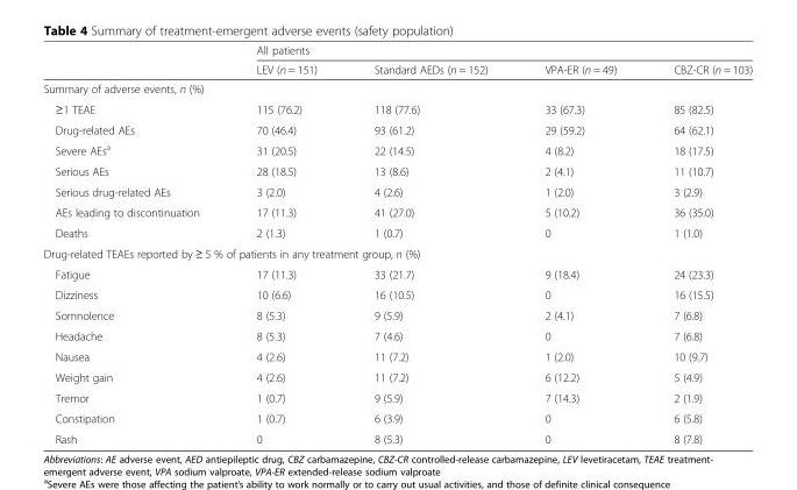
<table><thead><tr><td rowspan="2"></td><td colspan="4">All patients</td></tr><tr><td>LEV (n = 151)</td><td>Standard AEDs (n = 152)</td><td>VPA-ER (n = 49)</td><td>CBZ-CR (n = 103)</td></tr></thead><tbody><tr><td colspan="5">Summary of adverse events, n (%)</td></tr><tr><td>≥1 TEAE</td><td>115 (76.2)</td><td>118 (77.6)</td><td>33 (67.3)</td><td>85 (82.5)</td></tr><tr><td>Drug-related AEs</td><td>70 (46.4)</td><td>93 (61.2)</td><td>29 (59.2)</td><td>64 (62.1)</td></tr><tr><td>Severe AEs<sup>a</sup></td><td>31 (20.5)</td><td>22 (14.5)</td><td>4 (8.2)</td><td>18 (17.5)</td></tr><tr><td>Serious AEs</td><td>28 (18.5)</td><td>13 (8.6)</td><td>2 (4.1)</td><td>11 (10.7)</td></tr><tr><td>Serious drug-related AEs</td><td>3 (2.0)</td><td>4 (2.6)</td><td>1 (2.0)</td><td>3 (2.9)</td></tr><tr><td>AEs leading to discontinuation</td><td>17 (11.3)</td><td>41 (27.0)</td><td>5 (10.2)</td><td>36 (35.0)</td></tr><tr><td>Deaths</td><td>2 (1.3)</td><td>1 (0.7)</td><td>0</td><td>1 (1.0)</td></tr><tr><td colspan="5">Drug-related TEAEs reported by ≥ 5 % of patients in any treatment group, n (%)</td></tr><tr><td>Fatigue</td><td>17 (11.3)</td><td>33 (21.7)</td><td>9 (18.4)</td><td>24 (23.3)</td></tr><tr><td>Dizziness</td><td>10 (6.6)</td><td>16 (10.5)</td><td>0</td><td>16 (15.5)</td></tr><tr><td>Somnolence</td><td>8 (5.3)</td><td>9 (5.9)</td><td>2 (4.1)</td><td>7 (6.8)</td></tr><tr><td>Headache</td><td>8 (5.3)</td><td>7 (4.6)</td><td>0</td><td>7 (6.8)</td></tr><tr><td>Nausea</td><td>4 (2.6)</td><td>11 (7.2)</td><td>1 (2.0)</td><td>10 (9.7)</td></tr><tr><td>Weight gain</td><td>4 (2.6)</td><td>11 (7.2)</td><td>6 (12.2)</td><td>5 (4.9)</td></tr><tr><td>Tremor</td><td>1 (0.7)</td><td>9 (5.9)</td><td>7 (14.3)</td><td>2 (1.9)</td></tr><tr><td>Constipation</td><td>1 (0.7)</td><td>6 (3.9)</td><td>0</td><td>6 (5.8)</td></tr><tr><td>Rash</td><td>0</td><td>8 (5.3)</td><td>0</td><td>8 (7.8)</td></tr></tbody></table>